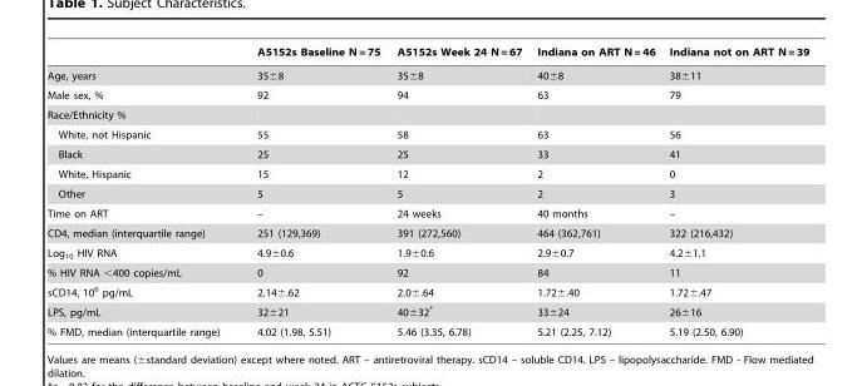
<table><thead><tr><td></td><td>A5152s Baseline N = 75</td><td>A5152s Week 24 N = 67</td><td>Indiana on ART N = 46</td><td>Indiana not on ART N = 39</td></tr></thead><tbody><tr><td>Age, years</td><td>35±8</td><td>35±8</td><td>40±8</td><td>38±11</td></tr><tr><td>Male sex, %</td><td>92</td><td>94</td><td>63</td><td>79</td></tr><tr><td colspan="5">Race/Ethnicity %</td></tr><tr><td>White, not Hispanic</td><td>55</td><td>58</td><td>63</td><td>56</td></tr><tr><td>Black</td><td>25</td><td>25</td><td>33</td><td>41</td></tr><tr><td>White, Hispanic</td><td>15</td><td>12</td><td>2</td><td>0</td></tr><tr><td>Other</td><td>5</td><td>5</td><td>2</td><td>3</td></tr><tr><td>Time on ART</td><td>–</td><td>24 weeks</td><td>40 months</td><td>–</td></tr><tr><td>CD4, median (interquartile range)</td><td>251 (129,369)</td><td>391 (272,560)</td><td>464 (362,761)</td><td>322 (216,432)</td></tr><tr><td>Log<sub>10</sub> HIV RNA</td><td>4.9±0.6</td><td>1.9±0.6</td><td>2.9±0.7</td><td>4.2±1.1</td></tr><tr><td>% HIV RNA &lt;400 copies/mL</td><td>0</td><td>92</td><td>84</td><td>11</td></tr><tr><td>sCD14, 10<sup>6</sup> pg/mL</td><td>2.14±.62</td><td>2.0±.64</td><td>1.72±.40</td><td>1.72±.47</td></tr><tr><td>LPS, pg/mL</td><td>32±21</td><td>40±32*</td><td>33±24</td><td>26±16</td></tr><tr><td>% FMD, median (interquartile range)</td><td>4.02 (1.98, 5.51)</td><td>5.46 (3.35, 6.78)</td><td>5.21 (2.25, 7.12)</td><td>5.19 (2.50, 6.90)</td></tr></tbody></table>